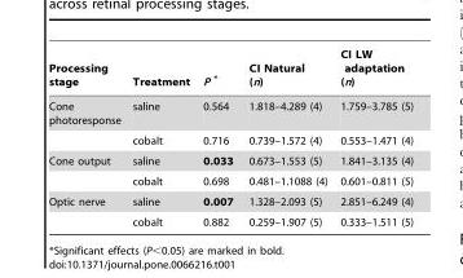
<table><thead><tr><td>Processing stage</td><td>Treatment</td><td>P *</td><td>CI Natural (n)</td><td>CI LW adaptation (n)</td></tr></thead><tbody><tr><td rowspan="2">Cone photoresponse</td><td>saline</td><td>0.564</td><td>1.818–4.289 (4)</td><td>1.759–3.785 (5)</td></tr><tr><td>cobalt</td><td>0.716</td><td>0.739–1.572 (4)</td><td>0.553–1.471 (4)</td></tr><tr><td rowspan="2">Cone output</td><td>saline</td><td>0.033</td><td>0.673–1.553 (5)</td><td>1.841–3.135 (4)</td></tr><tr><td>cobalt</td><td>0.698</td><td>0.481–1.1088 (4)</td><td>0.601–0.811 (5)</td></tr><tr><td rowspan="2">Optic nerve</td><td>saline</td><td>0.007</td><td>1.328–2.093 (5)</td><td>2.851–6.249 (4)</td></tr><tr><td>cobalt</td><td>0.882</td><td>0.259–1.907 (5)</td><td>0.333–1.511 (5)</td></tr></tbody></table>